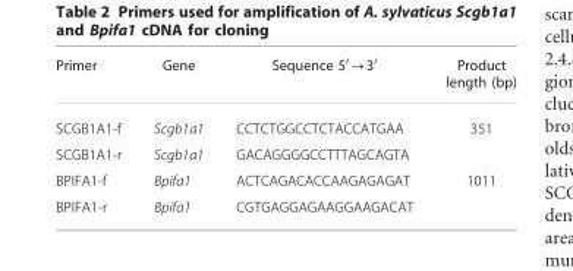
<table><thead><tr><td>Primer</td><td>Gene</td><td>Sequence 50-30</td><td>Product length (bp)</td></tr></thead><tbody><tr><td>SCGB1A1-f</td><td>Scgb1a1</td><td>CCTCTGGCCTCTACCATGAA</td><td>351</td></tr><tr><td>SCGB1A1-r</td><td>Scgb1a1</td><td>GACAGGGGCCTTTAGCAGTA</td><td></td></tr><tr><td>BPIFA1-f</td><td>Bpifa1</td><td>ACTCAGACACCAAGAGAGAT</td><td>1011</td></tr><tr><td>BPIFA1-r</td><td>Bpifa1</td><td>CGTGAGGAGAAGGAAGACAT</td><td></td></tr></tbody></table>